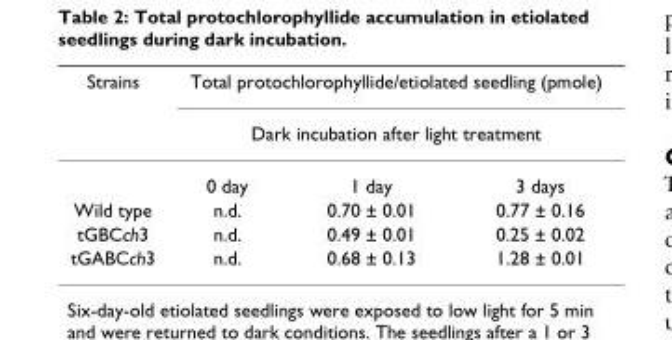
<table><thead><tr><td rowspan="3">Strains</td><td rowspan="2" colspan="3">Total protochlorophyllide/etiolated seedling (pmole) Dark incubation after light treatment</td></tr><tr></tr><tr><td>0 day</td><td>1 day</td><td>3 days</td></tr></thead><tbody><tr><td>Wild type</td><td>n.d.</td><td>0.70 ± 0.01</td><td>0.77 ± 0.16</td></tr><tr><td>tGBCch3</td><td>n.d.</td><td>0.49 ± 0.01</td><td>0.25 ± 0.02</td></tr><tr><td>tGABCch3</td><td>n.d.</td><td>0.68 ± 0.13</td><td>1.28 ± 0.01</td></tr></tbody></table>